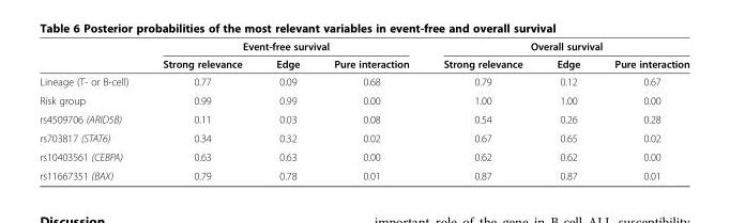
<table><thead><tr><td rowspan="2"></td><td colspan="3">Event-free survival</td><td colspan="3">Overall survival</td></tr><tr><td>Strong relevance</td><td>Edge</td><td>Pure interaction</td><td>Strong relevance</td><td>Edge</td><td>Pure interaction</td></tr></thead><tbody><tr><td>Lineage (T- or B-cell)</td><td>0.77</td><td>0.09</td><td>0.68</td><td>0.79</td><td>0.12</td><td>0.67</td></tr><tr><td>Risk group</td><td>0.99</td><td>0.99</td><td>0.00</td><td>1.00</td><td>1.00</td><td>0.00</td></tr><tr><td>rs4509706 (ARID5B)</td><td>0.11</td><td>0.03</td><td>0.08</td><td>0.54</td><td>0.26</td><td>0.28</td></tr><tr><td>rs703817 (STAT6)</td><td>0.34</td><td>0.32</td><td>0.02</td><td>0.67</td><td>0.65</td><td>0.02</td></tr><tr><td>rs10403561 (CEBPA)</td><td>0.63</td><td>0.63</td><td>0.00</td><td>0.62</td><td>0.62</td><td>0.00</td></tr><tr><td>rs11667351 (BAX)</td><td>0.79</td><td>0.78</td><td>0.01</td><td>0.87</td><td>0.87</td><td>0.01</td></tr></tbody></table>